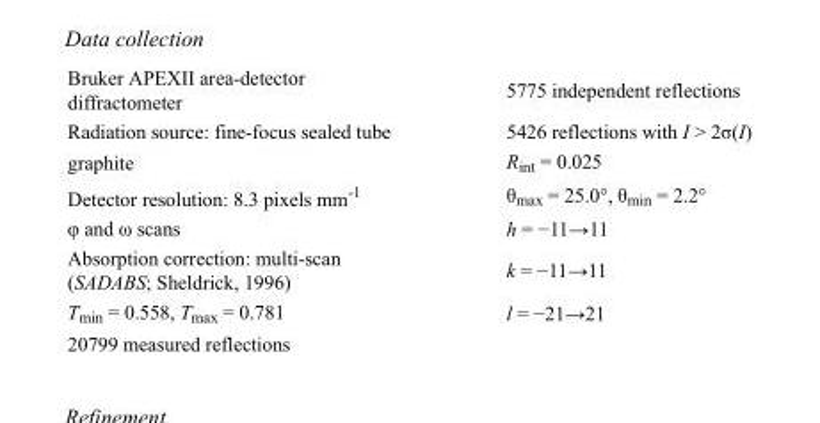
<table><tbody><tr><td>Bruker APEXII area-detector diffractometer</td><td>5775 independent reflections</td></tr><tr><td>Radiation source: fine-focus sealed tube</td><td>5426 reflections with I &gt; 2σ(I)</td></tr><tr><td>graphite</td><td>R<sub>int</sub> = 0.025</td></tr><tr><td>Detector resolution: 8.3 pixels mm<sup>-1</sup></td><td>θ<sub>max</sub> = 25.0°, θ<sub>min</sub> = 2.2°</td></tr><tr><td>φ and ω scans</td><td>h = −11→11</td></tr><tr><td>Absorption correction: multi-scan (SADABS; Sheldrick, 1996)</td><td>k = −11→11</td></tr><tr><td>T<sub>min</sub> = 0.558, T<sub>max</sub> = 0.781</td><td>l = −21→21</td></tr><tr><td>20799 measured reflections</td><td></td></tr></tbody></table>